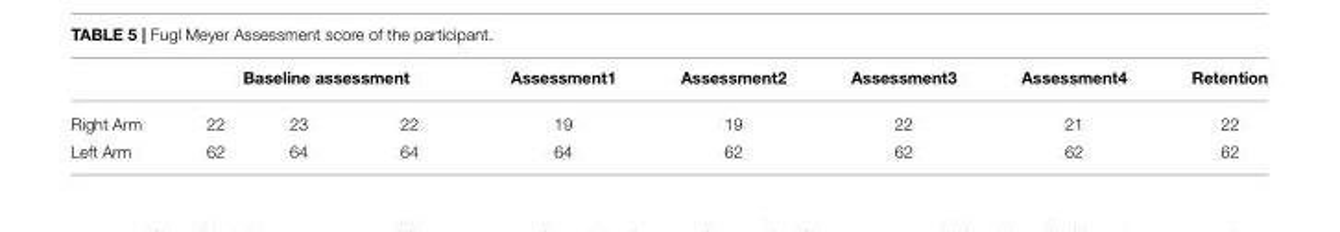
<table><thead><tr><td rowspan="2">Right Arm</td><td colspan="3">Baseline assessment</td><td rowspan="2">Assessment1 19</td><td rowspan="2">Assessment2 19</td><td rowspan="2">Assessment3 22</td><td rowspan="2">Assessment4 21</td><td rowspan="2">Retention 22</td></tr><tr><td>22</td><td>23</td><td>22</td></tr></thead><tbody><tr><td>Left Arm</td><td>62</td><td>64</td><td>64</td><td>64</td><td>62</td><td>62</td><td>62</td><td>62</td></tr></tbody></table>